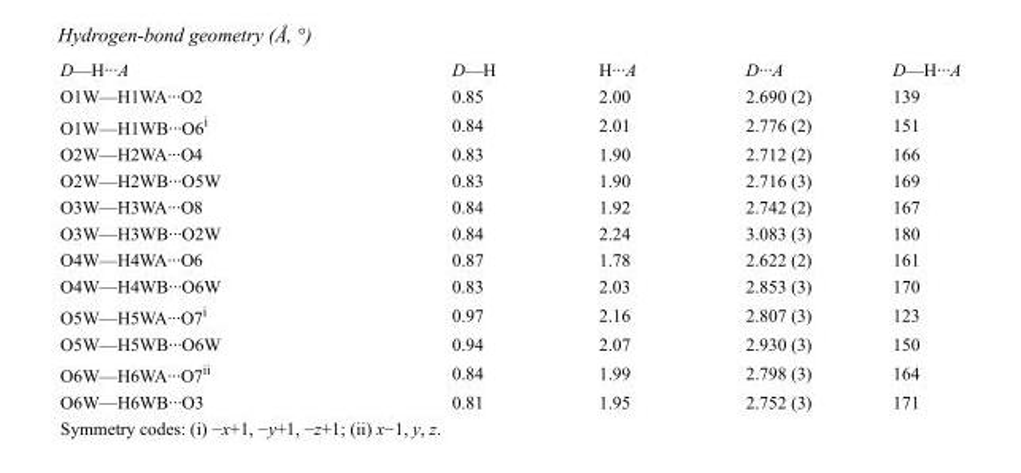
<table><tbody><tr><td>D—H···A</td><td>D—H</td><td>H···A</td><td>D···A</td><td>D—H···A</td></tr><tr><td>O1W—H1WA···O2</td><td>0.85</td><td>2.00</td><td>2.690 (2)</td><td>139</td></tr><tr><td>O1W—H1WB···O6<sup>i</sup></td><td>0.84</td><td>2.01</td><td>2.776 (2)</td><td>151</td></tr><tr><td>O2W—H2WA···O4</td><td>0.83</td><td>1.90</td><td>2.712 (2)</td><td>166</td></tr><tr><td>O2W—H2WB···O5W</td><td>0.83</td><td>1.90</td><td>2.716 (3)</td><td>169</td></tr><tr><td>O3W—H3WA···O8</td><td>0.84</td><td>1.92</td><td>2.742 (2)</td><td>167</td></tr><tr><td>O3W—H3WB···O2W</td><td>0.84</td><td>2.24</td><td>3.083 (3)</td><td>180</td></tr><tr><td>O4W—H4WA···O6</td><td>0.87</td><td>1.78</td><td>2.622 (2)</td><td>161</td></tr><tr><td>O4W—H4WB···O6W</td><td>0.83</td><td>2.03</td><td>2.853 (3)</td><td>170</td></tr><tr><td>O5W—H5WA···O7<sup>i</sup></td><td>0.97</td><td>2.16</td><td>2.807 (3)</td><td>123</td></tr><tr><td>O5W—H5WB···O6W</td><td>0.94</td><td>2.07</td><td>2.930 (3)</td><td>150</td></tr><tr><td>O6W—H6WA···O7<sup>ii</sup></td><td>0.84</td><td>1.99</td><td>2.798 (3)</td><td>164</td></tr><tr><td>O6W—H6WB···O3</td><td>0.81</td><td>1.95</td><td>2.752 (3)</td><td>171</td></tr></tbody></table>